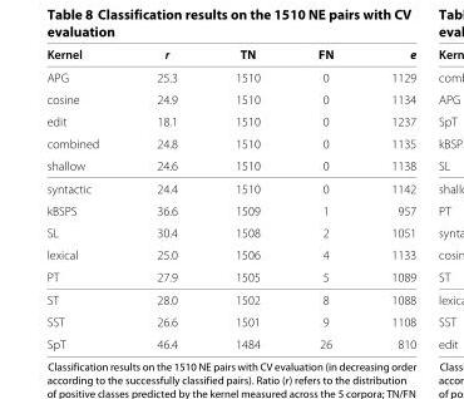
<table><thead><tr><td>Kernel</td><td>r</td><td>TN</td><td>FN</td><td>e</td></tr></thead><tbody><tr><td>APG</td><td>25.3</td><td>1510</td><td>0</td><td>1129</td></tr><tr><td>cosine</td><td>24.9</td><td>1510</td><td>0</td><td>1134</td></tr><tr><td>edit</td><td>18.1</td><td>1510</td><td>0</td><td>1237</td></tr><tr><td>combined</td><td>24.8</td><td>1510</td><td>0</td><td>1135</td></tr><tr><td>shallow</td><td>24.6</td><td>1510</td><td>0</td><td>1138</td></tr><tr><td>syntactic</td><td>24.4</td><td>1510</td><td>0</td><td>1142</td></tr><tr><td>kBSPS</td><td>36.6</td><td>1509</td><td>1</td><td>957</td></tr><tr><td>SL</td><td>30.4</td><td>1508</td><td>2</td><td>1051</td></tr><tr><td>lexical</td><td>25.0</td><td>1506</td><td>4</td><td>1133</td></tr><tr><td>PT</td><td>27.9</td><td>1505</td><td>5</td><td>1089</td></tr><tr><td>ST</td><td>28.0</td><td>1502</td><td>8</td><td>1088</td></tr><tr><td>SST</td><td>26.6</td><td>1501</td><td>9</td><td>1108</td></tr><tr><td>SpT</td><td>46.4</td><td>1484</td><td>26</td><td>810</td></tr></tbody></table>